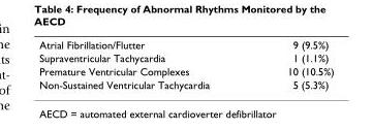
<table><tbody><tr><td>Atrial Fibrillation/Flutter</td><td>9 (9.5%)</td></tr><tr><td>Supraventricular Tachycardia</td><td>1 (1.1%)</td></tr><tr><td>Premature Ventricular Complexes</td><td>10 (10.5%)</td></tr><tr><td>Non-Sustained Ventricular Tachycardia</td><td>5 (5.3%)</td></tr></tbody></table>